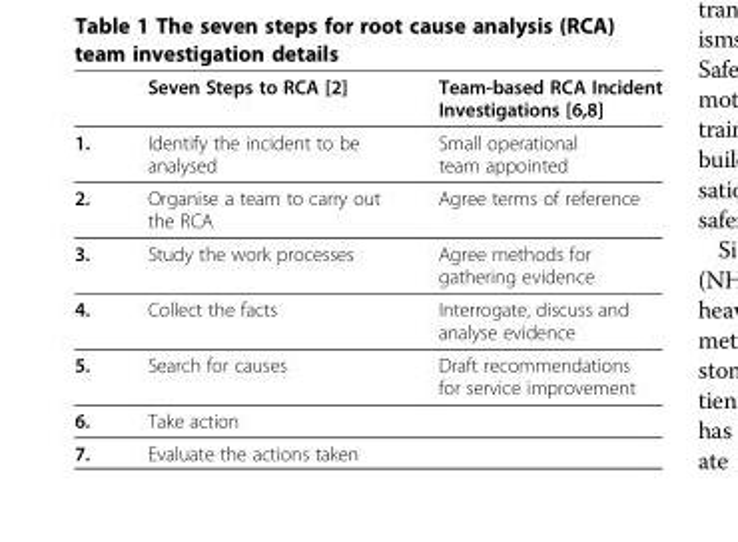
<table><thead><tr><td></td><td>Seven Steps to RCA [2]</td><td>Team-based RCA Incident Investigations [6,8]</td></tr></thead><tbody><tr><td>1.</td><td>Identify the incident to be analysed</td><td>Small operational team appointed</td></tr><tr><td>2.</td><td>Organise a team to carry out the RCA</td><td>Agree terms of reference</td></tr><tr><td>3.</td><td>Study the work processes</td><td>Agree methods for gathering evidence</td></tr><tr><td>4.</td><td>Collect the facts</td><td>Interrogate, discuss and analyse evidence</td></tr><tr><td>5.</td><td>Search for causes</td><td>Draft recommendations for service improvement</td></tr><tr><td>6.</td><td>Take action</td><td></td></tr><tr><td>7.</td><td>Evaluate the actions taken</td><td></td></tr></tbody></table>